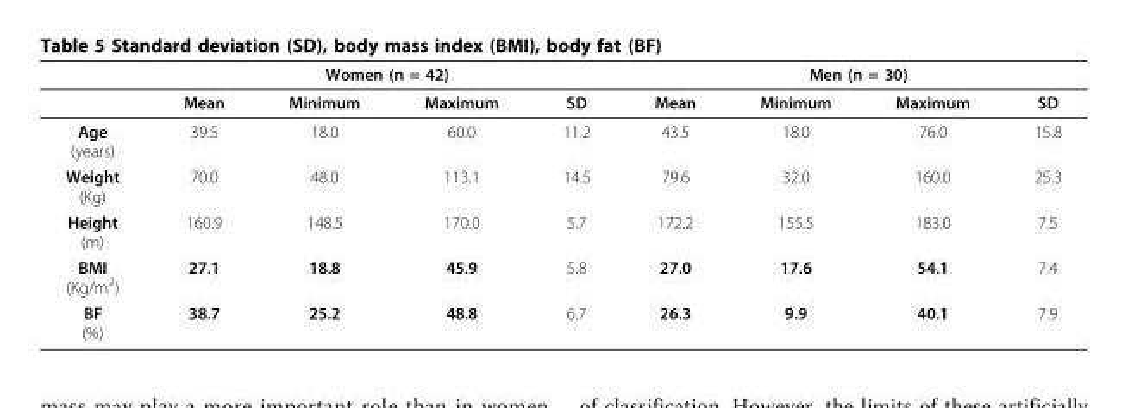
<table><thead><tr><td rowspan="2"></td><td colspan="4">Women (n = 42)</td><td colspan="4">Men (n = 30)</td></tr><tr><td>Mean</td><td>Minimum</td><td>Maximum</td><td>SD</td><td>Mean</td><td>Minimum</td><td>Maximum</td><td>SD</td></tr></thead><tbody><tr><td>Age (years)</td><td>39.5</td><td>18.0</td><td>60.0</td><td>11.2</td><td>43.5</td><td>18.0</td><td>76.0</td><td>15.8</td></tr><tr><td>Weight (Kg)</td><td>70.0</td><td>48.0</td><td>113.1</td><td>14.5</td><td>79.6</td><td>32.0</td><td>160.0</td><td>25.3</td></tr><tr><td>Height (m)</td><td>160.9</td><td>148.5</td><td>170.0</td><td>5.7</td><td>172.2</td><td>155.5</td><td>183.0</td><td>7.5</td></tr><tr><td>BMI (Kg/m<sup>2</sup>)</td><td>27.1</td><td>18.8</td><td>45.9</td><td>5.8</td><td>27.0</td><td>17.6</td><td>54.1</td><td>7.4</td></tr><tr><td>BF (%)</td><td>38.7</td><td>25.2</td><td>48.8</td><td>6.7</td><td>26.3</td><td>9.9</td><td>40.1</td><td>7.9</td></tr></tbody></table>